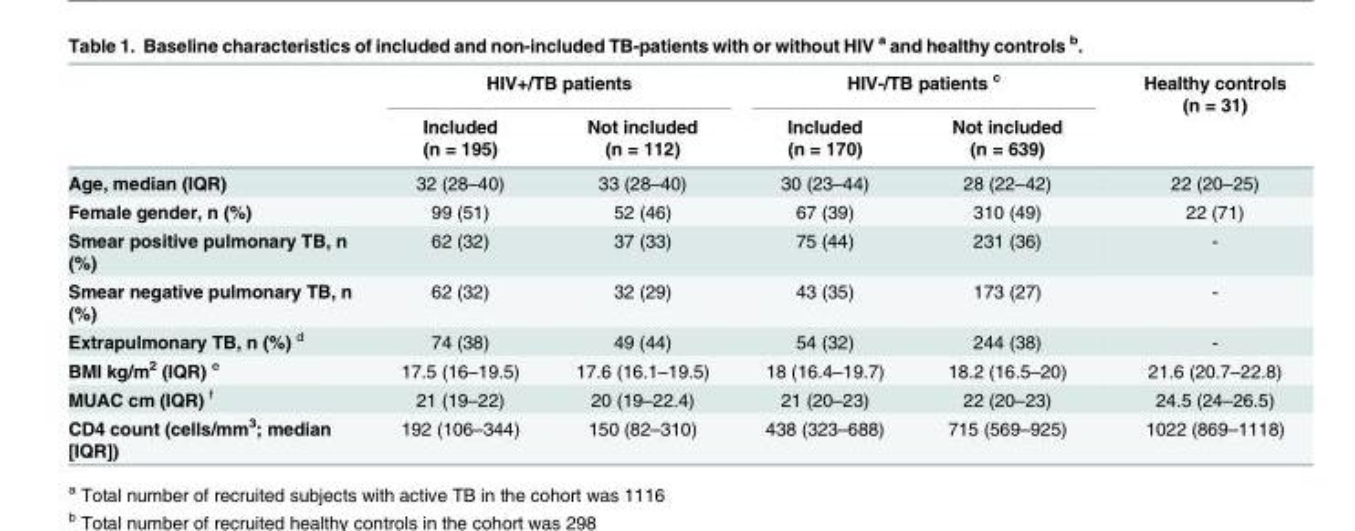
<table><thead><tr><td rowspan="2"></td><td colspan="2">HIV+/TB patients</td><td colspan="2">HIV-/TB patients <sup>c</sup></td><td rowspan="2">Healthy controls (n = 31)</td></tr><tr><td>Included (n = 195)</td><td>Not included (n = 112)</td><td>Included (n = 170)</td><td>Not included (n = 639)</td></tr></thead><tbody><tr><td>Age, median (IQR)</td><td>32 (28–40)</td><td>33 (28–40)</td><td>30 (23–44)</td><td>28 (22–42)</td><td>22 (20–25)</td></tr><tr><td>Female gender, n (%)</td><td>99 (51)</td><td>52 (46)</td><td>67 (39)</td><td>310 (49)</td><td>22 (71)</td></tr><tr><td>Smear positive pulmonary TB, n (%)</td><td>62 (32)</td><td>37 (33)</td><td>75 (44)</td><td>231 (36)</td><td>-</td></tr><tr><td>Smear negative pulmonary TB, n (%)</td><td>62 (32)</td><td>32 (29)</td><td>43 (35)</td><td>173 (27)</td><td>-</td></tr><tr><td>Extrapulmonary TB, n (%) <sup>d</sup></td><td>74 (38)</td><td>49 (44)</td><td>54 (32)</td><td>244 (38)</td><td>-</td></tr><tr><td>BMI kg/m<sup>2</sup> (IQR) <sup>e</sup></td><td>17.5 (16–19.5)</td><td>17.6 (16.1–19.5)</td><td>18 (16.4–19.7)</td><td>18.2 (16.5–20)</td><td>21.6 (20.7–22.8)</td></tr><tr><td>MUAC cm (IQR) <sup>f</sup></td><td>21 (19–22)</td><td>20 (19–22.4)</td><td>21 (20–23)</td><td>22 (20–23)</td><td>24.5 (24–26.5)</td></tr><tr><td>CD4 count (cells/mm<sup>3</sup>; median [IQR])</td><td>192 (106–344)</td><td>150 (82–310)</td><td>438 (323–688)</td><td>715 (569–925)</td><td>1022 (869–1118)</td></tr></tbody></table>